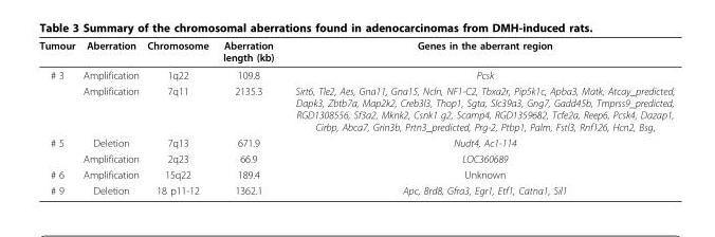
<table><thead><tr><td>Tumour</td><td>Aberration</td><td>Chromosome</td><td>Aberration length (kb)</td><td>Genes in the aberrant region</td></tr></thead><tbody><tr><td rowspan="2"># 3</td><td>Amplification</td><td>1q22</td><td>109.8</td><td>Pcsk</td></tr><tr><td>Amplification</td><td>7q11</td><td>2135.3</td><td>Sirt6, Tle2, Aes, Gna11, Gna15, Ncln, NF1-C2, Tbxa2r, Pip5k1c, Apba3, Matk, Atcay_predicted, Dapk3, Zbtb7a, Map2k2, Creb3l3, Thop1, Sgta, Slc39a3, Gng7, Gadd45b, Tmprss9_predicted, RGD1308556, Sf3a2, Mknk2, Csnk1 g2, Scamp4, RGD1359682, Tcfe2a, Reep6, Pcsk4, Dazap1, Cirbp, Abca7, Grin3b, Prtn3_predicted, Prg-2, Ptbp1, Palm, Fstl3, Rnf126, Hcn2, Bsg,</td></tr><tr><td rowspan="2"># 5</td><td>Deletion</td><td>7q13</td><td>671.9</td><td>Nudt4, Ac1-114</td></tr><tr><td>Amplification</td><td>2q23</td><td>66.9</td><td>LOC360689</td></tr><tr><td># 6</td><td>Amplification</td><td>15q22</td><td>189.4</td><td>Unknown</td></tr><tr><td># 9</td><td>Deletion</td><td>18 p11-12</td><td>1362.1</td><td>Apc, Brd8, Gfra3, Egr1, Etf1, Catna1, Sil1</td></tr></tbody></table>